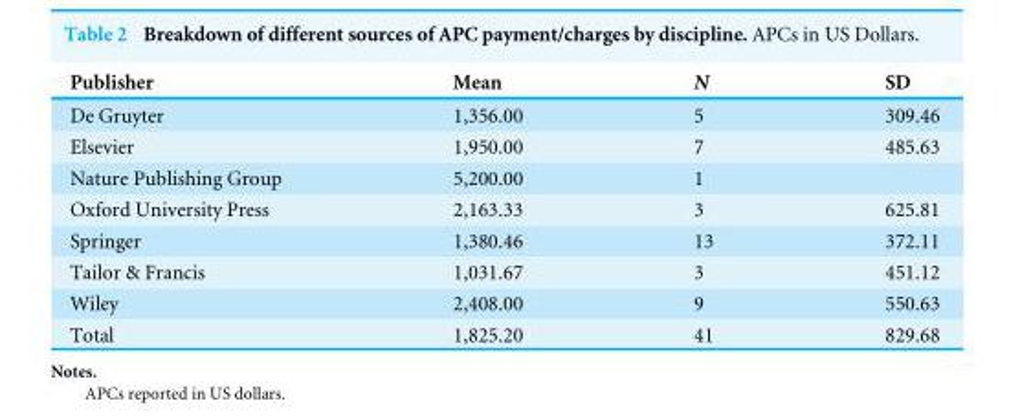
<table><thead><tr><td>Publisher</td><td>Mean</td><td>N</td><td>SD</td></tr></thead><tbody><tr><td>De Gruyter</td><td>1,356.00</td><td>5</td><td>309.46</td></tr><tr><td>Elsevier</td><td>1,950.00</td><td>7</td><td>485.63</td></tr><tr><td>Nature Publishing Group</td><td>5,200.00</td><td>1</td><td></td></tr><tr><td>Oxford University Press</td><td>2,163.33</td><td>3</td><td>625.81</td></tr><tr><td>Springer</td><td>1,380.46</td><td>13</td><td>372.11</td></tr><tr><td>Tailor &amp; Francis</td><td>1,031.67</td><td>3</td><td>451.12</td></tr><tr><td>Wiley</td><td>2,408.00</td><td>9</td><td>550.63</td></tr><tr><td>Total</td><td>1,825.20</td><td>41</td><td>829.68</td></tr></tbody></table>